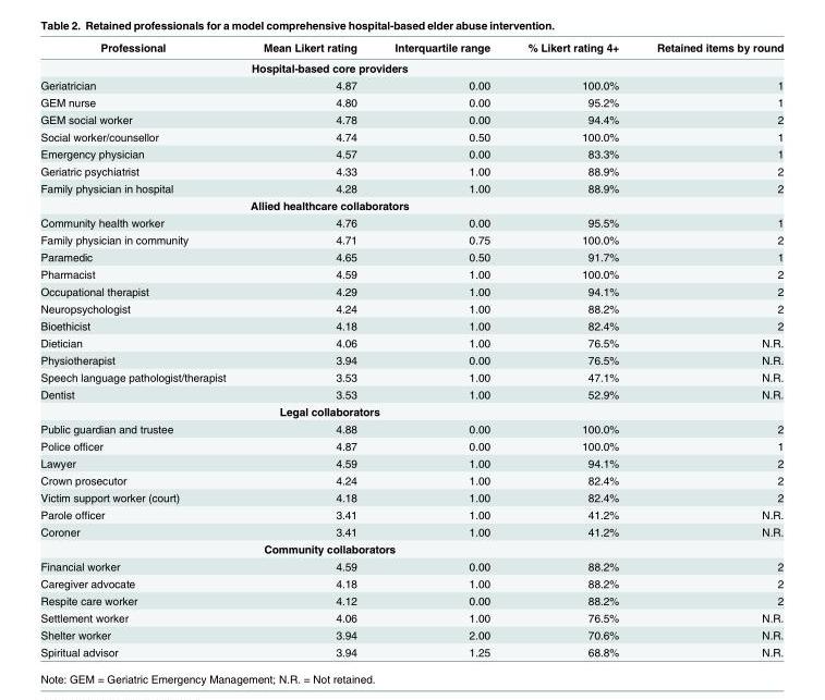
<table><thead><tr><td>Professional</td><td>Mean Likert rating</td><td>Interquartile range</td><td>% Likert rating 4+</td><td>Retained items by round</td></tr></thead><tbody><tr><td colspan="5">Hospital-based core providers</td></tr><tr><td>Geriatrician</td><td>4.87</td><td>0.00</td><td>100.0%</td><td>1</td></tr><tr><td>GEM nurse</td><td>4.80</td><td>0.00</td><td>95.2%</td><td>1</td></tr><tr><td>GEM social worker</td><td>4.78</td><td>0.00</td><td>94.4%</td><td>2</td></tr><tr><td>Social worker/counsellor</td><td>4.74</td><td>0.50</td><td>100.0%</td><td>1</td></tr><tr><td>Emergency physician</td><td>4.57</td><td>0.00</td><td>83.3%</td><td>1</td></tr><tr><td>Geriatric psychiatrist</td><td>4.33</td><td>1.00</td><td>88.9%</td><td>2</td></tr><tr><td>Family physician in hospital</td><td>4.28</td><td>1.00</td><td>88.9%</td><td>2</td></tr><tr><td colspan="5">Allied healthcare collaborators</td></tr><tr><td>Community health worker</td><td>4.76</td><td>0.00</td><td>95.5%</td><td>1</td></tr><tr><td>Family physician in community</td><td>4.71</td><td>0.75</td><td>100.0%</td><td>2</td></tr><tr><td>Paramedic</td><td>4.65</td><td>0.50</td><td>91.7%</td><td>1</td></tr><tr><td>Pharmacist</td><td>4.59</td><td>1.00</td><td>100.0%</td><td>2</td></tr><tr><td>Occupational therapist</td><td>4.29</td><td>1.00</td><td>94.1%</td><td>2</td></tr><tr><td>Neuropsychologist</td><td>4.24</td><td>1.00</td><td>88.2%</td><td>2</td></tr><tr><td>Bioethicist</td><td>4.18</td><td>1.00</td><td>82.4%</td><td>2</td></tr><tr><td>Dietician</td><td>4.06</td><td>1.00</td><td>76.5%</td><td>N.R.</td></tr><tr><td>Physiotherapist</td><td>3.94</td><td>0.00</td><td>76.5%</td><td>N.R.</td></tr><tr><td>Speech language pathologist/therapist</td><td>3.53</td><td>1.00</td><td>47.1%</td><td>N.R.</td></tr><tr><td>Dentist</td><td>3.53</td><td>1.00</td><td>52.9%</td><td>N.R.</td></tr><tr><td colspan="5">Legal collaborators</td></tr><tr><td>Public guardian and trustee</td><td>4.88</td><td>0.00</td><td>100.0%</td><td>2</td></tr><tr><td>Police officer</td><td>4.87</td><td>0.00</td><td>100.0%</td><td>1</td></tr><tr><td>Lawyer</td><td>4.59</td><td>1.00</td><td>94.1%</td><td>2</td></tr><tr><td>Crown prosecutor</td><td>4.24</td><td>1.00</td><td>82.4%</td><td>2</td></tr><tr><td>Victim support worker (court)</td><td>4.18</td><td>1.00</td><td>82.4%</td><td>2</td></tr><tr><td>Parole officer</td><td>3.41</td><td>1.00</td><td>41.2%</td><td>N.R.</td></tr><tr><td>Coroner</td><td>3.41</td><td>1.00</td><td>41.2%</td><td>N.R.</td></tr><tr><td colspan="5">Community collaborators</td></tr><tr><td>Financial worker</td><td>4.59</td><td>0.00</td><td>88.2%</td><td>2</td></tr><tr><td>Caregiver advocate</td><td>4.18</td><td>1.00</td><td>88.2%</td><td>2</td></tr><tr><td>Respite care worker</td><td>4.12</td><td>0.00</td><td>88.2%</td><td>2</td></tr><tr><td>Settlement worker</td><td>4.06</td><td>1.00</td><td>76.5%</td><td>N.R.</td></tr><tr><td>Shelter worker</td><td>3.94</td><td>2.00</td><td>70.6%</td><td>N.R.</td></tr><tr><td>Spiritual advisor</td><td>3.94</td><td>1.25</td><td>68.8%</td><td>N.R.</td></tr></tbody></table>